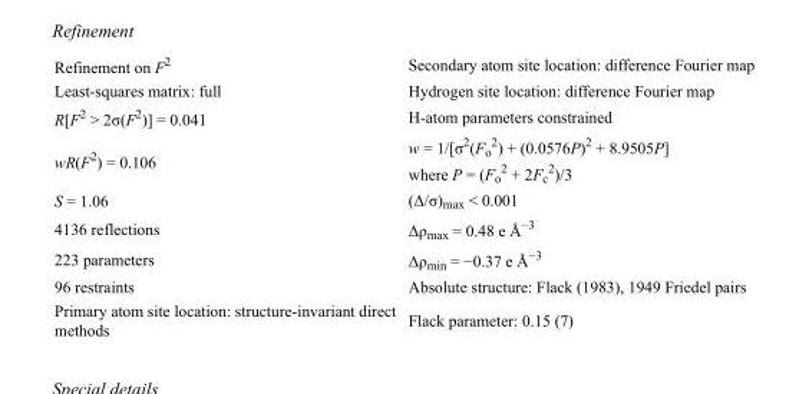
<table><tbody><tr><td>Refinement on F<sup>2</sup></td><td>Secondary atom site location: difference Fourier map</td></tr><tr><td>Least-squares matrix: full</td><td>Hydrogen site location: difference Fourier map</td></tr><tr><td>R[F<sup>2</sup> &gt; 2σ(F<sup>2</sup>)] = 0.041</td><td>H-atom parameters constrained</td></tr><tr><td>wR(F<sup>2</sup>) = 0.106</td><td>w = 1/[σ<sup>2</sup>(F<sub>o</sub> <sup>2</sup>) + (0.0576P)<sup>2</sup> + 8.9505P] where P = (F<sub>o</sub> <sup>2</sup> + 2F<sub>c</sub> <sup>2</sup>)/3</td></tr><tr><td>S = 1.06</td><td>(Δ/σ)<sub>max</sub> &lt; 0.001</td></tr><tr><td>4136 reflections</td><td>Δρ<sub>max</sub> = 0.48 e Å<sup>−3</sup></td></tr><tr><td>223 parameters</td><td>Δρ<sub>min</sub> = −0.37 e Å<sup>−3</sup></td></tr><tr><td>96 restraints</td><td>Absolute structure: Flack (1983), 1949 Friedel pairs</td></tr><tr><td>Primary atom site location: structure-invariant direct methods</td><td>Flack parameter: 0.15 (7)</td></tr></tbody></table>